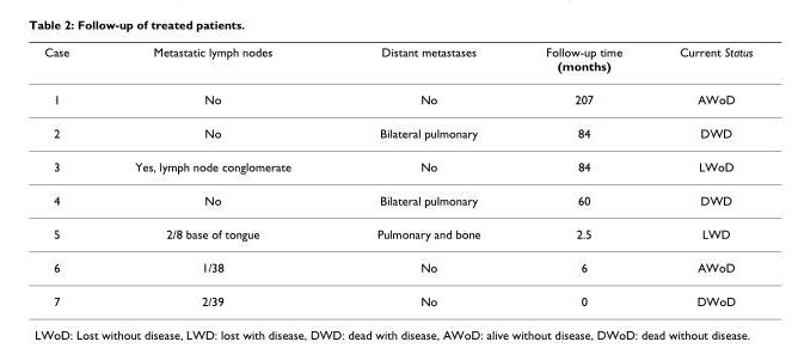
<table><thead><tr><td>Case</td><td>Metastatic lymph nodes</td><td>Distant metastases</td><td>Follow-up time (months)</td><td>Current Status</td></tr></thead><tbody><tr><td>1</td><td>No</td><td>No</td><td>207</td><td>AWoD</td></tr><tr><td>2</td><td>No</td><td>Bilateral pulmonary</td><td>84</td><td>DWD</td></tr><tr><td>3</td><td>Yes, lymph node conglomerate</td><td>No</td><td>84</td><td>LWoD</td></tr><tr><td>4</td><td>No</td><td>Bilateral pulmonary</td><td>60</td><td>DWD</td></tr><tr><td>5</td><td>2/8 base of tongue</td><td>Pulmonary and bone</td><td>2.5</td><td>LWD</td></tr><tr><td>6</td><td>1/38</td><td>No</td><td>6</td><td>AWoD</td></tr><tr><td>7</td><td>2/39</td><td>No</td><td>0</td><td>DWoD</td></tr></tbody></table>